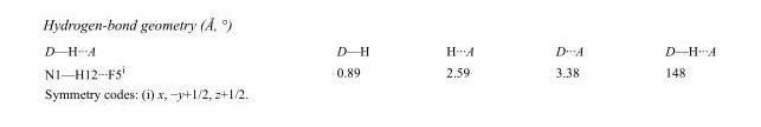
<table><tbody><tr><td>D—H···A</td><td>D—H</td><td>H···A</td><td>D···A</td><td>D—H···A</td></tr><tr><td>N1—H12···F5<sup>i</sup></td><td>0.89</td><td>2.59</td><td>3.38</td><td>148</td></tr></tbody></table>